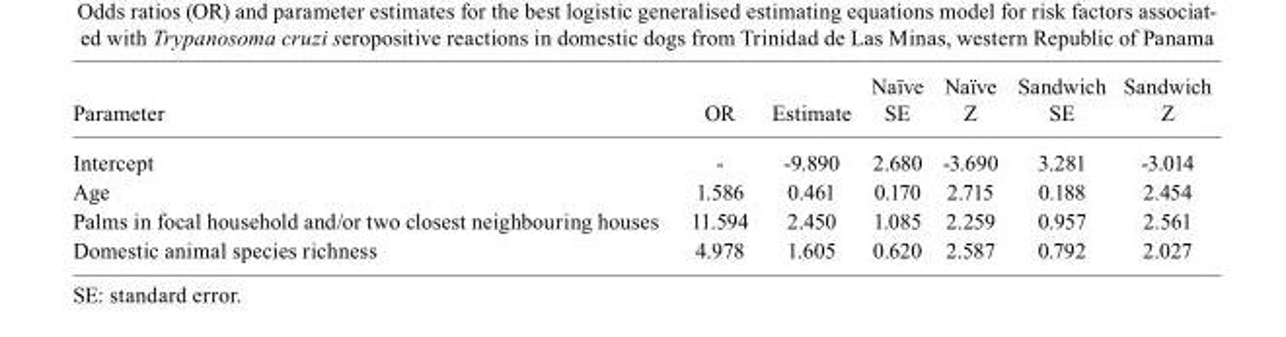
<table><thead><tr><td>Parameter</td><td>OR</td><td>Estimate</td><td>Naïve SE</td><td>Naïve Z</td><td>Sandwich SE</td><td>Sandwich Z</td></tr></thead><tbody><tr><td>Intercept</td><td>-</td><td>-9.890</td><td>2.680</td><td>-3.690</td><td>3.281</td><td>-3.014</td></tr><tr><td>Age</td><td>1.586</td><td>0.461</td><td>0.170</td><td>2.715</td><td>0.188</td><td>2.454</td></tr><tr><td>Palms in focal household and/or two closest neighbouring houses</td><td>11.594</td><td>2.450</td><td>1.085</td><td>2.259</td><td>0.957</td><td>2.561</td></tr><tr><td>Domestic animal species richness</td><td>4.978</td><td>1.605</td><td>0.620</td><td>2.587</td><td>0.792</td><td>2.027</td></tr></tbody></table>